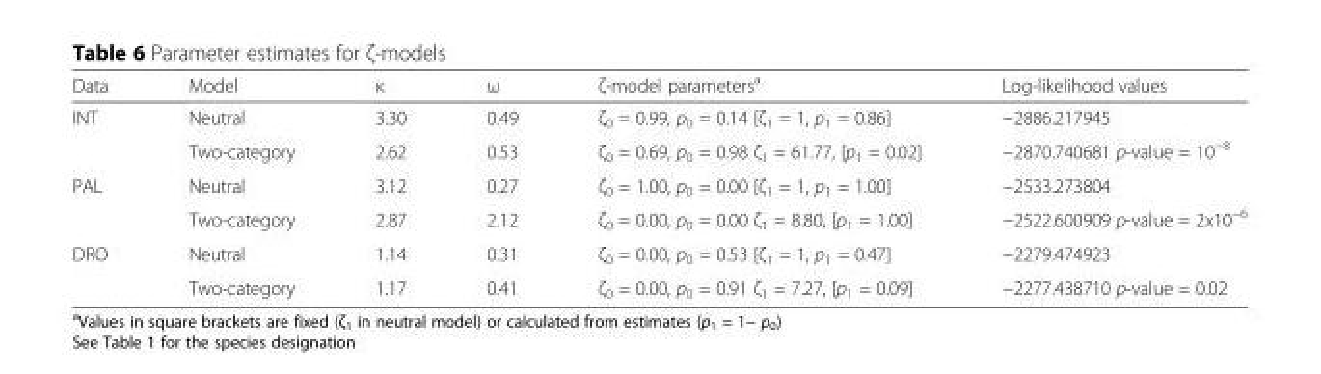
<table><thead><tr><td>Data</td><td>Model</td><td>κ</td><td>ω</td><td>ζ-model parameters<sup>a</sup></td><td>Log-likelihood values</td></tr></thead><tbody><tr><td rowspan="2">INT</td><td>Neutral</td><td>3.30</td><td>0.49</td><td>ζ<sub>0</sub> = 0.99, p<sub>0</sub> = 0.14 [ζ<sub>1</sub> = 1, p<sub>1</sub> = 0.86]</td><td>−2886.217945</td></tr><tr><td>Two-category</td><td>2.62</td><td>0.53</td><td>ζ<sub>0</sub> = 0.69, p<sub>0</sub> = 0.98 ζ<sub>1</sub> = 61.77, [p<sub>1</sub> = 0.02]</td><td>−2870.740681 p-value = 10<sup>−8</sup></td></tr><tr><td rowspan="2">PAL</td><td>Neutral</td><td>3.12</td><td>0.27</td><td>ζ<sub>0</sub> = 1.00, p<sub>0</sub> = 0.00 [ζ<sub>1</sub> = 1, p<sub>1</sub> = 1.00]</td><td>−2533.273804</td></tr><tr><td>Two-category</td><td>2.87</td><td>2.12</td><td>ζ<sub>0</sub> = 0.00, p<sub>0</sub> = 0.00 ζ<sub>1</sub> = 8.80, [p<sub>1</sub> = 1.00]</td><td>−2522.600909 p-value = 2x10<sup>−6</sup></td></tr><tr><td rowspan="2">DRO</td><td>Neutral</td><td>1.14</td><td>0.31</td><td>ζ<sub>0</sub> = 0.00, p<sub>0</sub> = 0.53 [ζ<sub>1</sub> = 1, p<sub>1</sub> = 0.47]</td><td>−2279.474923</td></tr><tr><td>Two-category</td><td>1.17</td><td>0.41</td><td>ζ<sub>0</sub> = 0.00, p<sub>0</sub> = 0.91 ζ<sub>1</sub> = 7.27, [p<sub>1</sub> = 0.09]</td><td>−2277.438710 p-value = 0.02</td></tr></tbody></table>